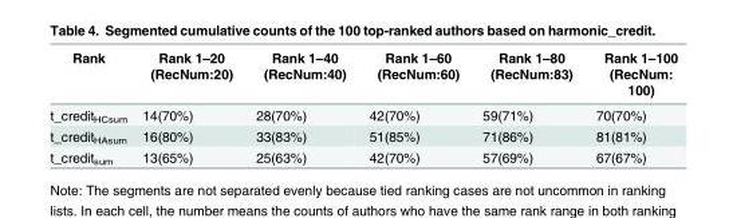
<table><thead><tr><td>Rank</td><td>Rank 1–20 (RecNum:20)</td><td>Rank 1–40 (RecNum:40)</td><td>Rank 1–60 (RecNum:60)</td><td>Rank 1–80 (RecNum:83)</td><td>Rank 1–100 (RecNum: 100)</td></tr></thead><tbody><tr><td>t_credit<sub>HCsum</sub></td><td>14(70%)</td><td>28(70%)</td><td>42(70%)</td><td>59(71%)</td><td>70(70%)</td></tr><tr><td>t_credit<sub>HAsum</sub></td><td>16(80%)</td><td>33(83%)</td><td>51(85%)</td><td>71(86%)</td><td>81(81%)</td></tr><tr><td>t_credit<sub>sum</sub></td><td>13(65%)</td><td>25(63%)</td><td>42(70%)</td><td>57(69%)</td><td>67(67%)</td></tr></tbody></table>